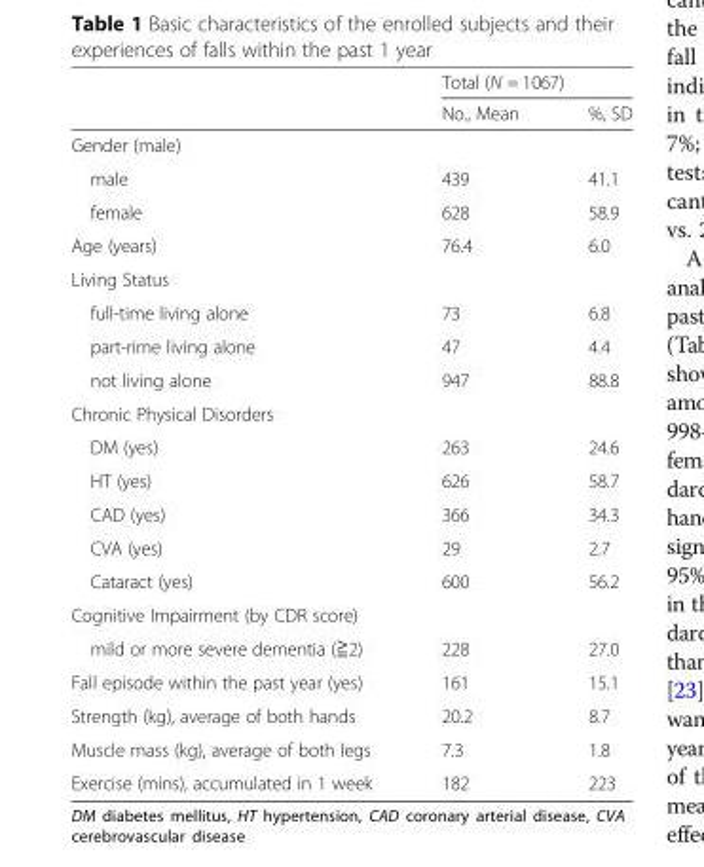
<table><thead><tr><td rowspan="2"></td><td colspan="2">Total (N = 1067)</td></tr><tr><td>No., Mean</td><td>%, SD</td></tr></thead><tbody><tr><td colspan="3">Gender (male)</td></tr><tr><td>male</td><td>439</td><td>41.1</td></tr><tr><td>female</td><td>628</td><td>58.9</td></tr><tr><td>Age (years)</td><td>76.4</td><td>6.0</td></tr><tr><td colspan="3">Living Status</td></tr><tr><td>full-time living alone</td><td>73</td><td>6.8</td></tr><tr><td>part-rime living alone</td><td>47</td><td>4.4</td></tr><tr><td>not living alone</td><td>947</td><td>88.8</td></tr><tr><td colspan="3">Chronic Physical Disorders</td></tr><tr><td>DM (yes)</td><td>263</td><td>24.6</td></tr><tr><td>HT (yes)</td><td>626</td><td>58.7</td></tr><tr><td>CAD (yes)</td><td>366</td><td>34.3</td></tr><tr><td>CVA (yes)</td><td>29</td><td>2.7</td></tr><tr><td>Cataract (yes)</td><td>600</td><td>56.2</td></tr><tr><td colspan="3">Cognitive Impairment (by CDR score)</td></tr><tr><td>mild or more severe dementia (≧2)</td><td>228</td><td>27.0</td></tr><tr><td>Fall episode within the past year (yes)</td><td>161</td><td>15.1</td></tr><tr><td>Strength (kg), average of both hands</td><td>20.2</td><td>8.7</td></tr><tr><td>Muscle mass (kg), average of both legs</td><td>7.3</td><td>1.8</td></tr><tr><td>Exercise (mins), accumulated in 1 week</td><td>182</td><td>223</td></tr></tbody></table>